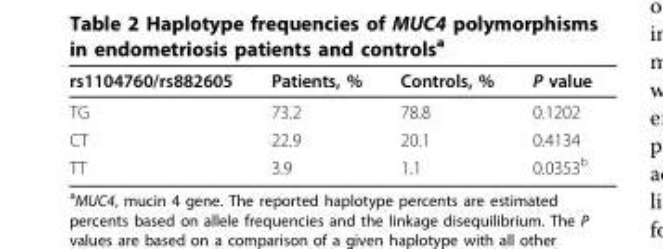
<table><thead><tr><td>rs1104760/rs882605</td><td>Patients, %</td><td>Controls, %</td><td>P value</td></tr></thead><tbody><tr><td>TG</td><td>73.2</td><td>78.8</td><td>0.1202</td></tr><tr><td>CT</td><td>22.9</td><td>20.1</td><td>0.4134</td></tr><tr><td>TT</td><td>3.9</td><td>1.1</td><td>0.0353<sup>b</sup></td></tr></tbody></table>